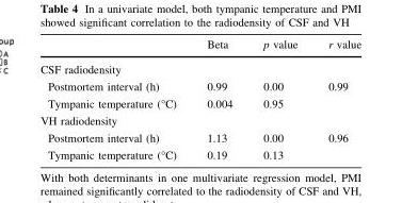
<table><thead><tr><td></td><td>Beta</td><td>p value</td><td>r value</td></tr></thead><tbody><tr><td colspan="4">CSF radiodensity</td></tr><tr><td>Postmortem interval (h)</td><td>0.99</td><td>0.00</td><td>0.99</td></tr><tr><td>Tympanic temperature (°C)</td><td>0.004</td><td>0.95</td><td></td></tr><tr><td colspan="4">VH radiodensity</td></tr><tr><td>Postmortem interval (h)</td><td>1.13</td><td>0.00</td><td>0.96</td></tr><tr><td>Tympanic temperature (°C)</td><td>0.19</td><td>0.13</td><td></td></tr></tbody></table>